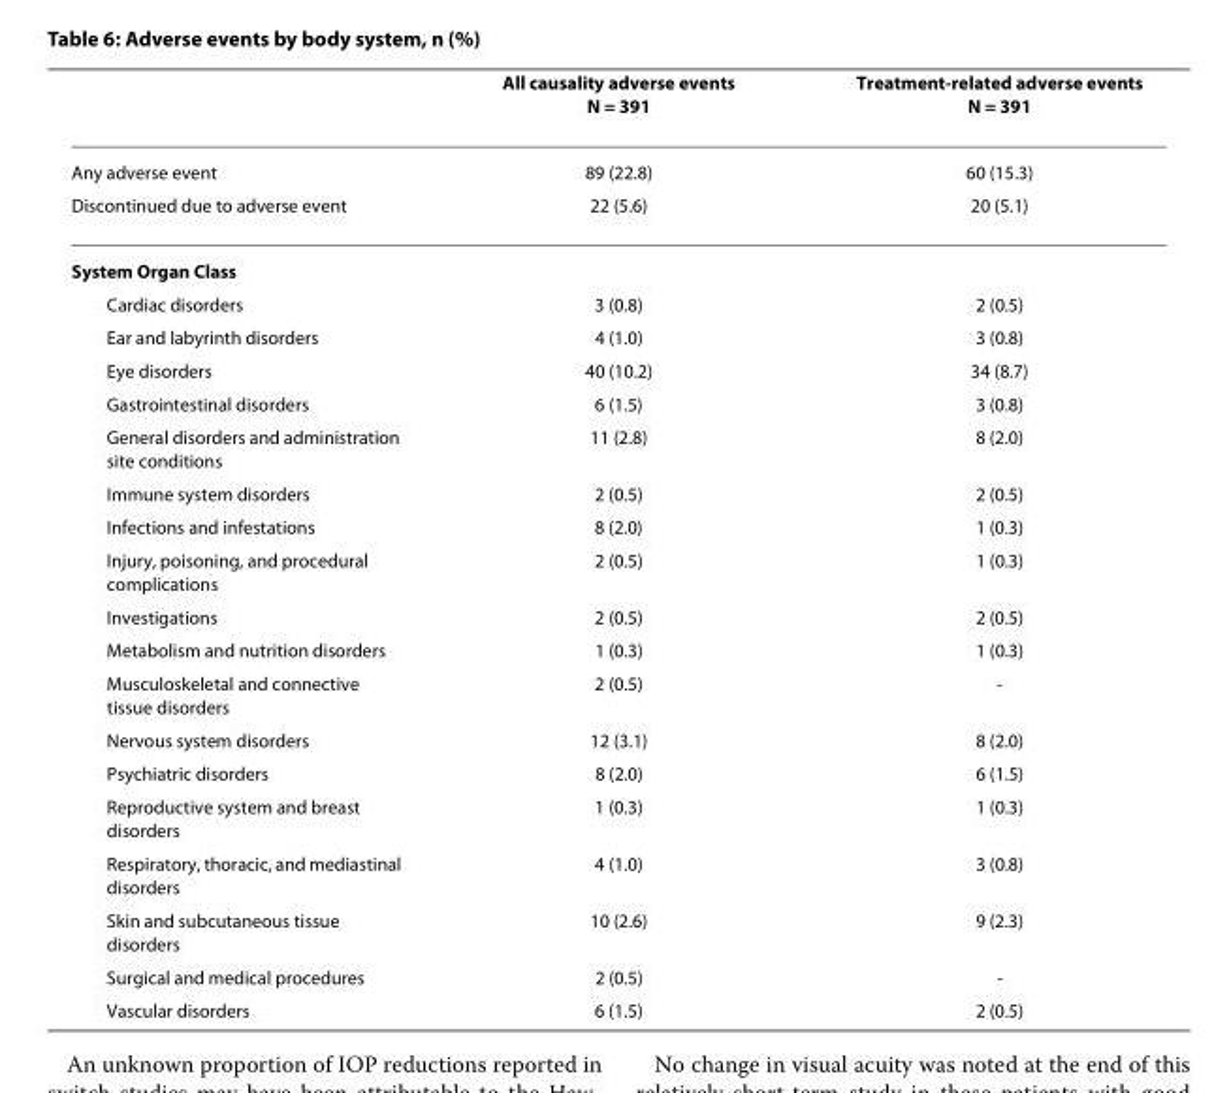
<table><thead><tr><td></td><td>All causality adverse events N = 391</td><td>Treatment-related adverse events N = 391</td></tr></thead><tbody><tr><td>Any adverse event</td><td>89 (22.8)</td><td>60 (15.3)</td></tr><tr><td>Discontinued due to adverse event</td><td>22 (5.6)</td><td>20 (5.1)</td></tr><tr><td colspan="3">System Organ Class</td></tr><tr><td>Cardiac disorders</td><td>3 (0.8)</td><td>2 (0.5)</td></tr><tr><td>Ear and labyrinth disorders</td><td>4 (1.0)</td><td>3 (0.8)</td></tr><tr><td>Eye disorders</td><td>40 (10.2)</td><td>34 (8.7)</td></tr><tr><td>Gastrointestinal disorders</td><td>6 (1.5)</td><td>3 (0.8)</td></tr><tr><td>General disorders and administration site conditions</td><td>11 (2.8)</td><td>8 (2.0)</td></tr><tr><td>Immune system disorders</td><td>2 (0.5)</td><td>2 (0.5)</td></tr><tr><td>Infections and infestations</td><td>8 (2.0)</td><td>1 (0.3)</td></tr><tr><td>Injury, poisoning, and procedural complications</td><td>2 (0.5)</td><td>1 (0.3)</td></tr><tr><td>Investigations</td><td>2 (0.5)</td><td>2 (0.5)</td></tr><tr><td>Metabolism and nutrition disorders</td><td>1 (0.3)</td><td>1 (0.3)</td></tr><tr><td>Musculoskeletal and connective tissue disorders</td><td>2 (0.5)</td><td>-</td></tr><tr><td>Nervous system disorders</td><td>12 (3.1)</td><td>8 (2.0)</td></tr><tr><td>Psychiatric disorders</td><td>8 (2.0)</td><td>6 (1.5)</td></tr><tr><td>Reproductive system and breast disorders</td><td>1 (0.3)</td><td>1 (0.3)</td></tr><tr><td>Respiratory, thoracic, and mediastinal disorders</td><td>4 (1.0)</td><td>3 (0.8)</td></tr><tr><td>Skin and subcutaneous tissue disorders</td><td>10 (2.6)</td><td>9 (2.3)</td></tr><tr><td>Surgical and medical procedures</td><td>2 (0.5)</td><td>-</td></tr><tr><td>Vascular disorders</td><td>6 (1.5)</td><td>2 (0.5)</td></tr></tbody></table>